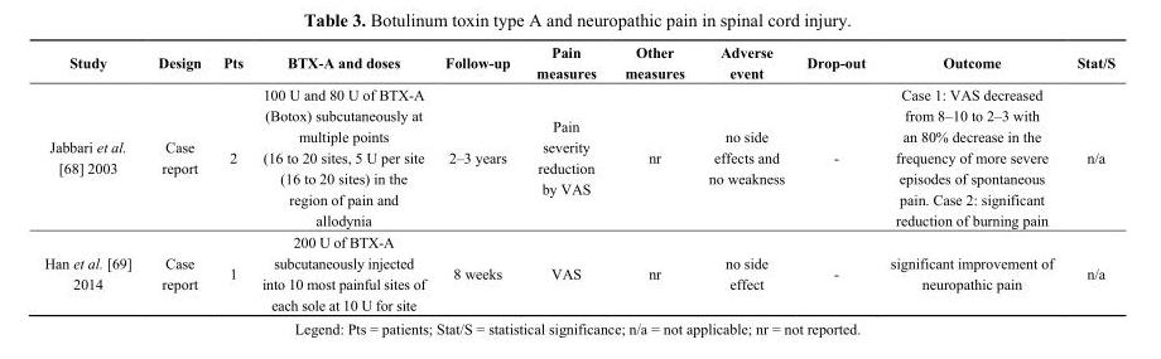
<table><thead><tr><td>Study</td><td>Design</td><td>Pts</td><td>BTX-A and doses</td><td>Follow-up</td><td>Pain measures</td><td>Other measures</td><td>Adverse event</td><td>Drop-out</td><td>Outcome</td><td>Stat/S</td></tr></thead><tbody><tr><td>Jabbari et al. [68] 2003</td><td>Case report</td><td>2</td><td>100 U and 80 U of BTX-A (Botox) subcutaneously at multiple points (16 to 20 sites, 5 U per site (16 to 20 sites) in the region of pain and allodynia</td><td>2–3 years</td><td>Pain severity reduction by VAS</td><td>nr</td><td>no side effects and no weakness</td><td>-</td><td>Case 1: VAS decreased from 8–10 to 2–3 with an 80% decrease in the frequency of more severe episodes of spontaneous pain. Case 2: significant reduction of burning pain</td><td>n/a</td></tr><tr><td>Han et al. [69] 2014</td><td>Case report</td><td>1</td><td>200 U of BTX-A subcutaneously injected into 10 most painful sites of each sole at 10 U for site</td><td>8 weeks</td><td>VAS</td><td>nr</td><td>no side effect</td><td>-</td><td>significant improvement of neuropathic pain</td><td>n/a</td></tr></tbody></table>